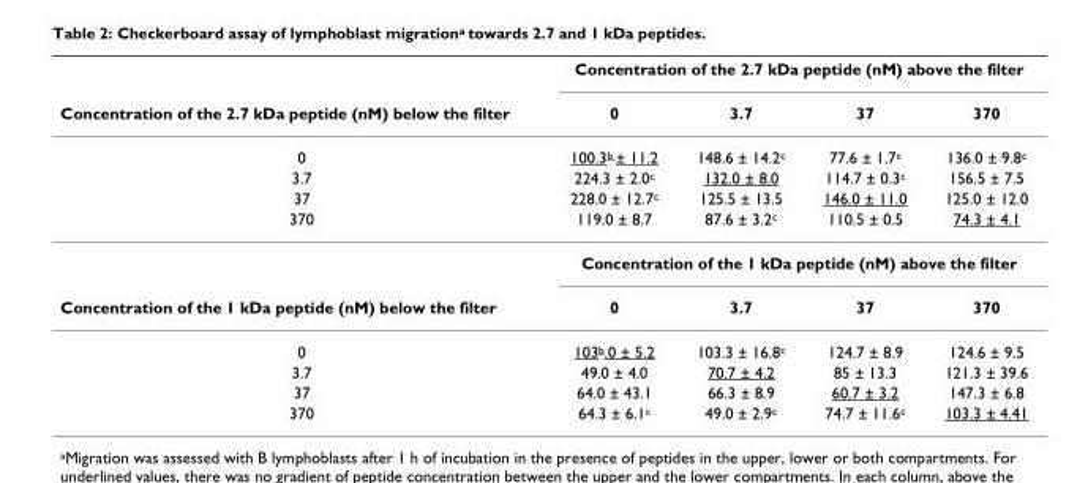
<table><thead><tr><td rowspan="2">Concentration of the 2.7 kDa peptide (nM) below the filter</td><td colspan="4">Concentration of the 2.7 kDa peptide (nM) above the filter</td></tr><tr><td>0</td><td>3.7</td><td>37</td><td>370</td></tr></thead><tbody><tr><td>0</td><td>100.3<sup>b</sup> ± 11.2</td><td>148.6 ± 14.2<sup>c</sup></td><td>77.6 ± 1.7<sup>c</sup></td><td>136.0 ± 9.8<sup>c</sup></td></tr><tr><td>3.7</td><td>224.3 ± 2.0<sup>c</sup></td><td>132.0 ± 8.0</td><td>114.7 ± 0.3<sup>c</sup></td><td>156.5 ± 7.5</td></tr><tr><td>37</td><td>228.0 ± 12.7<sup>c</sup></td><td>125.5 ± 13.5</td><td>146.0 ± 11.0</td><td>125.0 ± 12.0</td></tr><tr><td rowspan="2">370</td><td>119.0 ± 8.7</td><td>87.6 ± 3.2<sup>c</sup></td><td>110.5 ± 0.5</td><td>74.3 ± 4.1</td></tr><tr><td colspan="4">Concentration of the 1 kDa peptide (nM) above the filter</td></tr><tr><td>Concentration of the 1 kDa peptide (nM) below the filter</td><td>0</td><td>3.7</td><td>37</td><td>370</td></tr><tr><td>0</td><td>103<sup>b</sup>.0 ± 5.2</td><td>103.3 ± 16.8<sup>c</sup></td><td>124.7 ± 8.9</td><td>124.6 ± 9.5</td></tr><tr><td>3.7</td><td>49.0 ± 4.0</td><td>70.7 ± 4.2</td><td>85 ± 13.3</td><td>121.3 ± 39.6</td></tr><tr><td>37</td><td>64.0 ± 43.1</td><td>66.3 ± 8.9</td><td>60.7 ± 3.2</td><td>147.3 ± 6.8</td></tr><tr><td>370</td><td>64.3 ± 6.1<sup>c</sup></td><td>49.0 ± 2.9<sup>c</sup></td><td>74.7 ± 11.6<sup>c</sup></td><td>103.3 ± 4.41</td></tr></tbody></table>